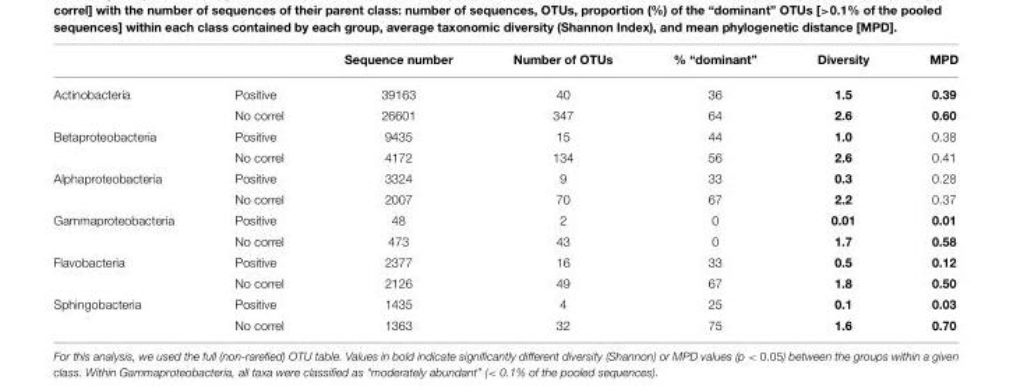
<table><thead><tr><td></td><td></td><td>Sequence number</td><td>Number of OTUs</td><td>% “dominant”</td><td>Diversity</td><td>MPD</td></tr></thead><tbody><tr><td rowspan="2">Actinobacteria</td><td>Positive</td><td>39163</td><td>40</td><td>36</td><td>1.5</td><td>0.39</td></tr><tr><td>No correl</td><td>26601</td><td>347</td><td>64</td><td>2.6</td><td>0.60</td></tr><tr><td rowspan="2">Betaproteobacteria</td><td>Positive</td><td>9435</td><td>15</td><td>44</td><td>1.0</td><td>0.38</td></tr><tr><td>No correl</td><td>4172</td><td>134</td><td>56</td><td>2.6</td><td>0.41</td></tr><tr><td rowspan="2">Alphaproteobacteria</td><td>Positive</td><td>3324</td><td>9</td><td>33</td><td>0.3</td><td>0.28</td></tr><tr><td>No correl</td><td>2007</td><td>70</td><td>67</td><td>2.2</td><td>0.37</td></tr><tr><td rowspan="2">Gammaproteobacteria</td><td>Positive</td><td>48</td><td>2</td><td>0</td><td>0.01</td><td>0.01</td></tr><tr><td>No correl</td><td>473</td><td>43</td><td>0</td><td>1.7</td><td>0.58</td></tr><tr><td rowspan="2">Flavobacteria</td><td>Positive</td><td>2377</td><td>16</td><td>33</td><td>0.5</td><td>0.12</td></tr><tr><td>No correl</td><td>2126</td><td>49</td><td>67</td><td>1.8</td><td>0.50</td></tr><tr><td rowspan="2">Sphingobacteria</td><td>Positive</td><td>1435</td><td>4</td><td>25</td><td>0.1</td><td>0.03</td></tr><tr><td>No correl</td><td>1363</td><td>32</td><td>75</td><td>1.6</td><td>0.70</td></tr></tbody></table>